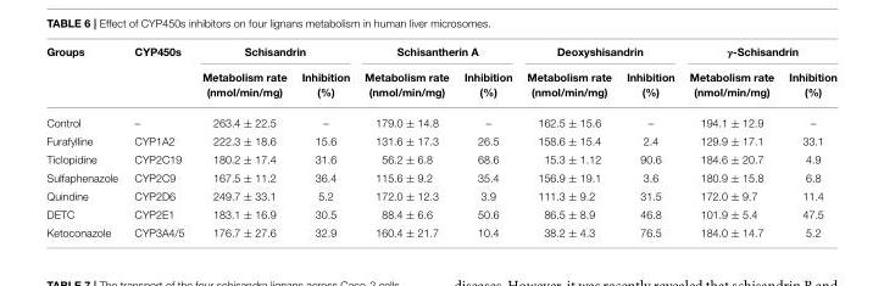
<table><thead><tr><td rowspan="2">Groups</td><td rowspan="2">CYP450s</td><td colspan="2">Schisandrin</td><td colspan="2">Schisantherin A</td><td colspan="2">Deoxyshisandrin</td><td colspan="2">γ-Schisandrin</td></tr><tr><td>Metabolism rate (nmol/min/mg)</td><td>Inhibition (%)</td><td>Metabolism rate (nmol/min/mg)</td><td>Inhibition (%)</td><td>Metabolism rate (nmol/min/mg)</td><td>Inhibition (%)</td><td>Metabolism rate (nmol/min/mg)</td><td>Inhibition (%)</td></tr></thead><tbody><tr><td>Control</td><td>–</td><td>263.4 ± 22.5</td><td>–</td><td>179.0 ± 14.8</td><td>–</td><td>162.5 ± 15.6</td><td>–</td><td>194.1 ± 12.9</td><td>–</td></tr><tr><td>Furafylline</td><td>CYP1A2</td><td>222.3 ± 18.6</td><td>15.6</td><td>131.6 ± 17.3</td><td>26.5</td><td>158.6 ± 15.4</td><td>2.4</td><td>129.9 ± 17.1</td><td>33.1</td></tr><tr><td>Ticlopidine</td><td>CYP2C19</td><td>180.2 ± 17.4</td><td>31.6</td><td>56.2 ± 6.8</td><td>68.6</td><td>15.3 ± 1.12</td><td>90.6</td><td>184.6 ± 20.7</td><td>4.9</td></tr><tr><td>Sulfaphenazole</td><td>CYP2C9</td><td>167.5 ± 11.2</td><td>36.4</td><td>115.6 ± 9.2</td><td>35.4</td><td>156.9 ± 19.1</td><td>3.6</td><td>180.9 ± 15.8</td><td>6.8</td></tr><tr><td>Quindine</td><td>CYP2D6</td><td>249.7 ± 33.1</td><td>5.2</td><td>172.0 ± 12.3</td><td>3.9</td><td>111.3 ± 9.2</td><td>31.5</td><td>172.0 ± 9.7</td><td>11.4</td></tr><tr><td>DETC</td><td>CYP2E1</td><td>183.1 ± 16.9</td><td>30.5</td><td>88.4 ± 6.6</td><td>50.6</td><td>86.5 ± 8.9</td><td>46.8</td><td>101.9 ± 5.4</td><td>47.5</td></tr><tr><td>Ketoconazole</td><td>CYP3A4/5</td><td>176.7 ± 27.6</td><td>32.9</td><td>160.4 ± 21.7</td><td>10.4</td><td>38.2 ± 4.3</td><td>76.5</td><td>184.0 ± 14.7</td><td>5.2</td></tr></tbody></table>